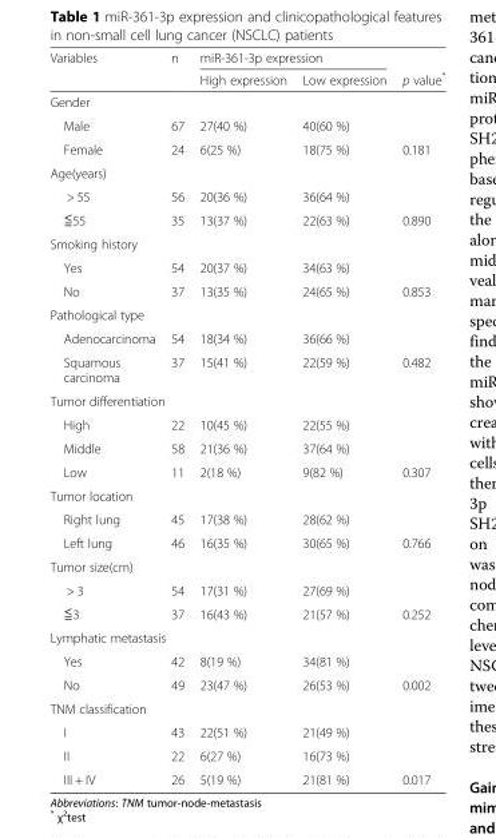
<table><thead><tr><td rowspan="2">Variables</td><td rowspan="2">n</td><td colspan="2">miR-361-3p expression</td><td rowspan="2">p value*</td></tr><tr><td>High expression</td><td>Low expression</td></tr></thead><tbody><tr><td colspan="5">Gender</td></tr><tr><td>Male</td><td>67</td><td>27(40 %)</td><td>40(60 %)</td><td></td></tr><tr><td>Female</td><td>24</td><td>6(25 %)</td><td>18(75 %)</td><td>0.181</td></tr><tr><td colspan="5">Age(years)</td></tr><tr><td>&gt; 55</td><td>56</td><td>20(36 %)</td><td>36(64 %)</td><td></td></tr><tr><td>≦55</td><td>35</td><td>13(37 %)</td><td>22(63 %)</td><td>0.890</td></tr><tr><td colspan="5">Smoking history</td></tr><tr><td>Yes</td><td>54</td><td>20(37 %)</td><td>34(63 %)</td><td></td></tr><tr><td>No</td><td>37</td><td>13(35 %)</td><td>24(65 %)</td><td>0.853</td></tr><tr><td colspan="5">Pathological type</td></tr><tr><td>Adenocarcinoma</td><td>54</td><td>18(34 %)</td><td>36(66 %)</td><td></td></tr><tr><td>Squamous carcinoma</td><td>37</td><td>15(41 %)</td><td>22(59 %)</td><td>0.482</td></tr><tr><td colspan="5">Tumor differentiation</td></tr><tr><td>High</td><td>22</td><td>10(45 %)</td><td>22(55 %)</td><td></td></tr><tr><td>Middle</td><td>58</td><td>21(36 %)</td><td>37(64 %)</td><td></td></tr><tr><td>Low</td><td>11</td><td>2(18 %)</td><td>9(82 %)</td><td>0.307</td></tr><tr><td colspan="5">Tumor location</td></tr><tr><td>Right lung</td><td>45</td><td>17(38 %)</td><td>28(62 %)</td><td></td></tr><tr><td>Left lung</td><td>46</td><td>16(35 %)</td><td>30(65 %)</td><td>0.766</td></tr><tr><td colspan="5">Tumor size(cm)</td></tr><tr><td>&gt; 3</td><td>54</td><td>17(31 %)</td><td>27(69 %)</td><td></td></tr><tr><td>≦3</td><td>37</td><td>16(43 %)</td><td>21(57 %)</td><td>0.252</td></tr><tr><td colspan="5">Lymphatic metastasis</td></tr><tr><td>Yes</td><td>42</td><td>8(19 %)</td><td>34(81 %)</td><td></td></tr><tr><td>No</td><td>49</td><td>23(47 %)</td><td>26(53 %)</td><td>0.002</td></tr><tr><td colspan="5">TNM classification</td></tr><tr><td>I</td><td>43</td><td>22(51 %)</td><td>21(49 %)</td><td></td></tr><tr><td>II</td><td>22</td><td>6(27 %)</td><td>16(73 %)</td><td></td></tr><tr><td>III + IV</td><td>26</td><td>5(19 %)</td><td>21(81 %)</td><td>0.017</td></tr></tbody></table>